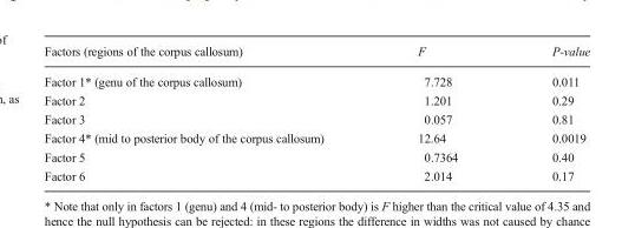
<table><thead><tr><td>Factors (regions of the corpus callosum)</td><td>F</td><td>P-value</td></tr></thead><tbody><tr><td>Factor 1* (genu of the corpus callosum)</td><td>7.728</td><td>0.011</td></tr><tr><td>Factor 2</td><td>1.201</td><td>0.29</td></tr><tr><td>Factor 3</td><td>0.057</td><td>0.81</td></tr><tr><td>Factor 4* (mid to posterior body of the corpus callosum)</td><td>12.64</td><td>0.0019</td></tr><tr><td>Factor 5</td><td>0.7364</td><td>0.40</td></tr><tr><td>Factor 6</td><td>2.014</td><td>0.17</td></tr></tbody></table>